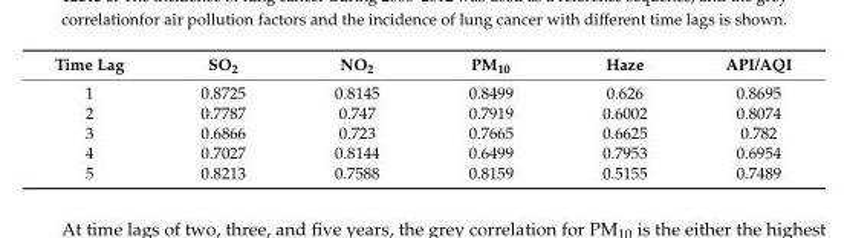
<table><thead><tr><td>Time Lag</td><td>SO<sub>2</sub></td><td>NO<sub>2</sub></td><td>PM<sub>10</sub></td><td>Haze</td><td>API/AQI</td></tr></thead><tbody><tr><td>1</td><td>0.8725</td><td>0.8145</td><td>0.8499</td><td>0.626</td><td>0.8695</td></tr><tr><td>2</td><td>0.7787</td><td>0.747</td><td>0.7919</td><td>0.6002</td><td>0.8074</td></tr><tr><td>3</td><td>0.6866</td><td>0.723</td><td>0.7665</td><td>0.6625</td><td>0.782</td></tr><tr><td>4</td><td>0.7027</td><td>0.8144</td><td>0.6499</td><td>0.7953</td><td>0.6954</td></tr><tr><td>5</td><td>0.8213</td><td>0.7588</td><td>0.8159</td><td>0.5155</td><td>0.7489</td></tr></tbody></table>